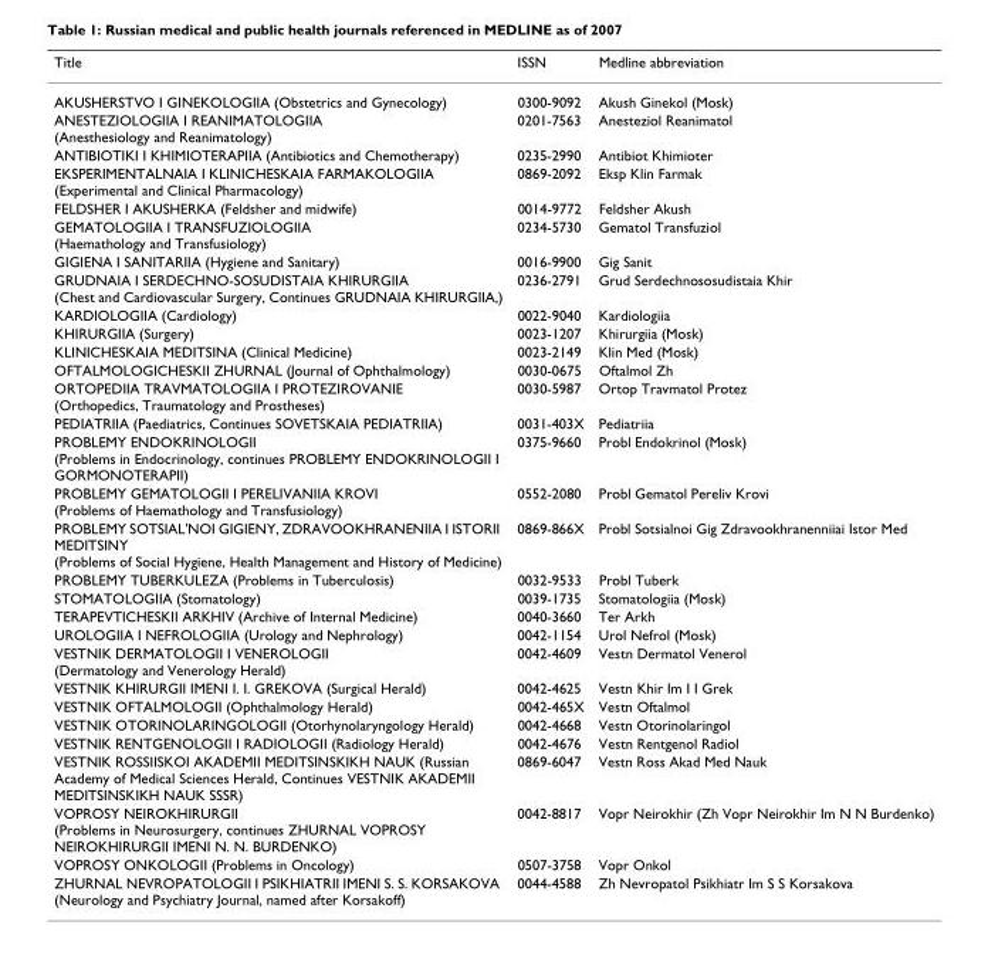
<table><thead><tr><td>Title</td><td>ISSN</td><td>Medline abbreviation</td></tr></thead><tbody><tr><td>AKUSHERSTVO I GINEKOLOGIIA (Obstetrics and Gynecology)</td><td>0300-9092</td><td>Akush Ginekol (Mosk)</td></tr><tr><td>ANESTEZIOLOGIIA I REANIMATOLOGIIA (Anesthesiology and Reanimatology)</td><td>0201-7563</td><td>Anesteziol Reanimatol</td></tr><tr><td>ANTIBIOTIKI I KHIMIOTERAPIIA (Antibiotics and Chemotherapy)</td><td>0235-2990</td><td>Antibiot Khimioter</td></tr><tr><td>EKSPERIMENTALNAIA I KLINICHESKAIA FARMAKOLOGIIA (Experimental and Clinical Pharmacology)</td><td>0869-2092</td><td>Eksp Klin Farmak</td></tr><tr><td>FELDSHER I AKUSHERKA (Feldsher and midwife)</td><td>0014-9772</td><td>Feldsher Akush</td></tr><tr><td>GEMATOLOGIIA I TRANSFUZIOLOGIIA (Haemathology and Transfusiology)</td><td>0234-5730</td><td>Gematol Transfuziol</td></tr><tr><td>GIGIENA I SANITARIIA (Hygiene and Sanitary)</td><td>0016-9900</td><td>Gig Sanit</td></tr><tr><td>GRUDNAIA I SERDECHNO-SOSUDISTAIA KHIRURGIIA (Chest and Cardiovascular Surgery, Continues GRUDNAIA KHIRURGIIA,)</td><td>0236-2791</td><td>Grud Serdechnososudistaia Khir</td></tr><tr><td>KARDIOLOGIIA (Cardiology)</td><td>0022-9040</td><td>Kardiologiia</td></tr><tr><td>KHIRURGIIA (Surgery)</td><td>0023-1207</td><td>Khirurgiia (Mosk)</td></tr><tr><td>KLINICHESKAIA MEDITSINA (Clinical Medicine)</td><td>0023-2149</td><td>Klin Med (Mosk)</td></tr><tr><td>OFTALMOLOGICHESKII ZHURNAL (Journal of Ophthalmology)</td><td>0030-0675</td><td>Oftalmol Zh</td></tr><tr><td>ORTOPEDIIA TRAVMATOLOGIIA I PROTEZIROVANIE (Orthopedics, Traumatology and Prostheses)</td><td>0030-5987</td><td>Ortop Travmatol Protez</td></tr><tr><td>PEDIATRIIA (Paediatrics, Continues SOVETSKAIA PEDIATRIIA)</td><td>0031-403X</td><td>Pediatriia</td></tr><tr><td>PROBLEMY ENDOKRINOLOGII (Problems in Endocrinology, continues PROBLEMY ENDOKRINOLOGII I GORMONOTERAPII)</td><td>0375-9660</td><td>Probl Endokrinol (Mosk)</td></tr><tr><td>PROBLEMY GEMATOLOGII I PERELIVANIIA KROVI (Problems of Haemathology and Transfusiology)</td><td>0552-2080</td><td>Probl Gematol Pereliv Krovi</td></tr><tr><td>PROBLEMY SOTSIAL&#x27;NOI GIGIENY, ZDRAVOOKHRANENIIA I ISTORII MEDITSINY (Problems of Social Hygiene, Health Management and History of Medicine)</td><td>0869-866X</td><td>Probl Sotsialnoi Gig Zdravookhranenniiai Istor Med</td></tr><tr><td>PROBLEMY TUBERKULEZA (Problems in Tuberculosis)</td><td>0032-9533</td><td>Probl Tuberk</td></tr><tr><td>STOMATOLOGIIA (Stomatology)</td><td>0039-1735</td><td>Stomatologiia (Mosk)</td></tr><tr><td>TERAPEVTICHESKII ARKHIV (Archive of Internal Medicine)</td><td>0040-3660</td><td>Ter Arkh</td></tr><tr><td>UROLOGIIA I NEFROLOGIIA (Urology and Nephrology)</td><td>0042-1154</td><td>Urol Nefrol (Mosk)</td></tr><tr><td>VESTNIK DERMATOLOGII I VENEROLOGII (Dermatology and Venerology Herald)</td><td>0042-4609</td><td>Vestn Dermatol Venerol</td></tr><tr><td>VESTNIK KHIRURGII IMENI I. I. GREKOVA (Surgical Herald)</td><td>0042-4625</td><td>Vestn Khir Im I I Grek</td></tr><tr><td>VESTNIK OFTALMOLOGII (Ophthalmology Herald)</td><td>0042-465X</td><td>Vestn Oftalmol</td></tr><tr><td>VESTNIK OTORINOLARINGOLOGII (Otorhynolaryngology Herald)</td><td>0042-4668</td><td>Vestn Otorinolaringol</td></tr><tr><td>VESTNIK RENTGENOLOGII I RADIOLOGII (Radiology Herald)</td><td>0042-4676</td><td>Vestn Rentgenol Radiol</td></tr><tr><td>VESTNIK ROSSIISKOI AKADEMII MEDITSINSKIKH NAUK (Russian Academy of Medical Sciences Herald, Continues VESTNIK AKADEMII MEDITSINSKIKH NAUK SSSR)</td><td>0869-6047</td><td>Vestn Ross Akad Med Nauk</td></tr><tr><td>VOPROSY NEIROKHIRURGII (Problems in Neurosurgery, continues ZHURNAL VOPROSY NEIROKHIRURGII IMENI N. N. BURDENKO)</td><td>0042-8817</td><td>Vopr Neirokhir (Zh Vopr Neirokhir Im N N Burdenko)</td></tr><tr><td>VOPROSY ONKOLOGII (Problems in Oncology)</td><td>0507-3758</td><td>Vopr Onkol</td></tr><tr><td>ZHURNAL NEVROPATOLOGII I PSIKHIATRII IMENI S. S. KORSAKOVA (Neurology and Psychiatry Journal, named after Korsakoff)</td><td>0044-4588</td><td>Zh Nevropatol Psikhiatr Im S S Korsakova</td></tr></tbody></table>